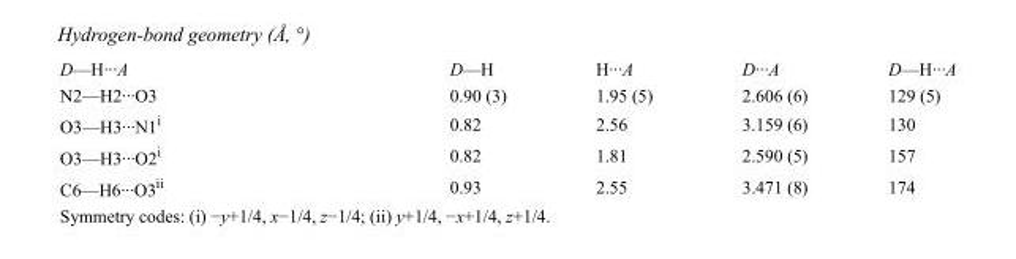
<table><tbody><tr><td>D—H···A</td><td>D—H</td><td>H···A</td><td>D···A</td><td>D—H···A</td></tr><tr><td>N2—H2···O3</td><td>0.90 (3)</td><td>1.95 (5)</td><td>2.606 (6)</td><td>129 (5)</td></tr><tr><td>O3—H3···N1<sup>i</sup></td><td>0.82</td><td>2.56</td><td>3.159 (6)</td><td>130</td></tr><tr><td>O3—H3···O2<sup>i</sup></td><td>0.82</td><td>1.81</td><td>2.590 (5)</td><td>157</td></tr><tr><td>C6—H6···O3<sup>ii</sup></td><td>0.93</td><td>2.55</td><td>3.471 (8)</td><td>174</td></tr></tbody></table>